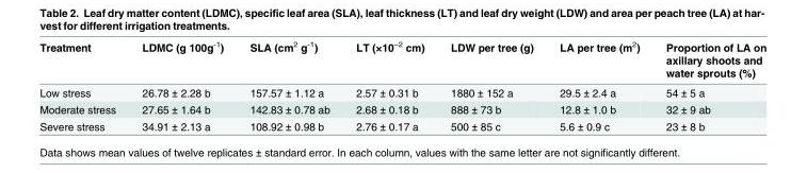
<table><thead><tr><td>Treatment</td><td>LDMC (g 100g<sup>-1</sup>)</td><td>SLA (cm<sup>2</sup> g<sup>-1</sup>)</td><td>LT (×10<sup>–2</sup> cm)</td><td>LDW per tree (g)</td><td>LA per tree (m<sup>2</sup>)</td><td>Proportion of LA on axillary shoots and water sprouts (%)</td></tr></thead><tbody><tr><td>Low stress</td><td>26.78 ± 2.28 b</td><td>157.57 ± 1.12 a</td><td>2.57 ± 0.31 b</td><td>1880 ± 152 a</td><td>29.5 ± 2.4 a</td><td>54 ± 5 a</td></tr><tr><td>Moderate stress</td><td>27.65 ± 1.64 b</td><td>142.83 ± 0.78 ab</td><td>2.68 ± 0.18 b</td><td>888 ± 73 b</td><td>12.8 ± 1.0 b</td><td>32 ± 9 ab</td></tr><tr><td>Severe stress</td><td>34.91 ± 2.13 a</td><td>108.92 ± 0.98 b</td><td>2.76 ± 0.17 a</td><td>500 ± 85 c</td><td>5.6 ± 0.9 c</td><td>23 ± 8 b</td></tr></tbody></table>